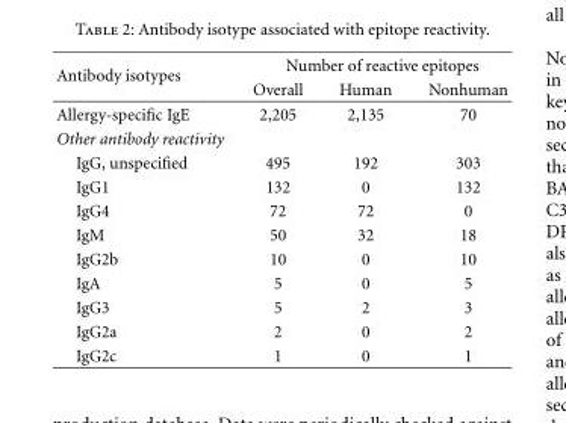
<table><thead><tr><td rowspan="2">Antibody isotypes</td><td colspan="3">Number of reactive epitopes</td></tr><tr><td>Overall</td><td>Human</td><td>Nonhuman</td></tr></thead><tbody><tr><td>Allergy-specific IgE</td><td>2,205</td><td>2,135</td><td>70</td></tr><tr><td colspan="4">Other antibody reactivity</td></tr><tr><td>IgG, unspecified</td><td>495</td><td>192</td><td>303</td></tr><tr><td>IgG1</td><td>132</td><td>0</td><td>132</td></tr><tr><td>IgG4</td><td>72</td><td>72</td><td>0</td></tr><tr><td>IgM</td><td>50</td><td>32</td><td>18</td></tr><tr><td>IgG2b</td><td>10</td><td>0</td><td>10</td></tr><tr><td>IgA</td><td>5</td><td>0</td><td>5</td></tr><tr><td>IgG3</td><td>5</td><td>2</td><td>3</td></tr><tr><td>IgG2a</td><td>2</td><td>0</td><td>2</td></tr><tr><td>IgG2c</td><td>1</td><td>0</td><td>1</td></tr></tbody></table>